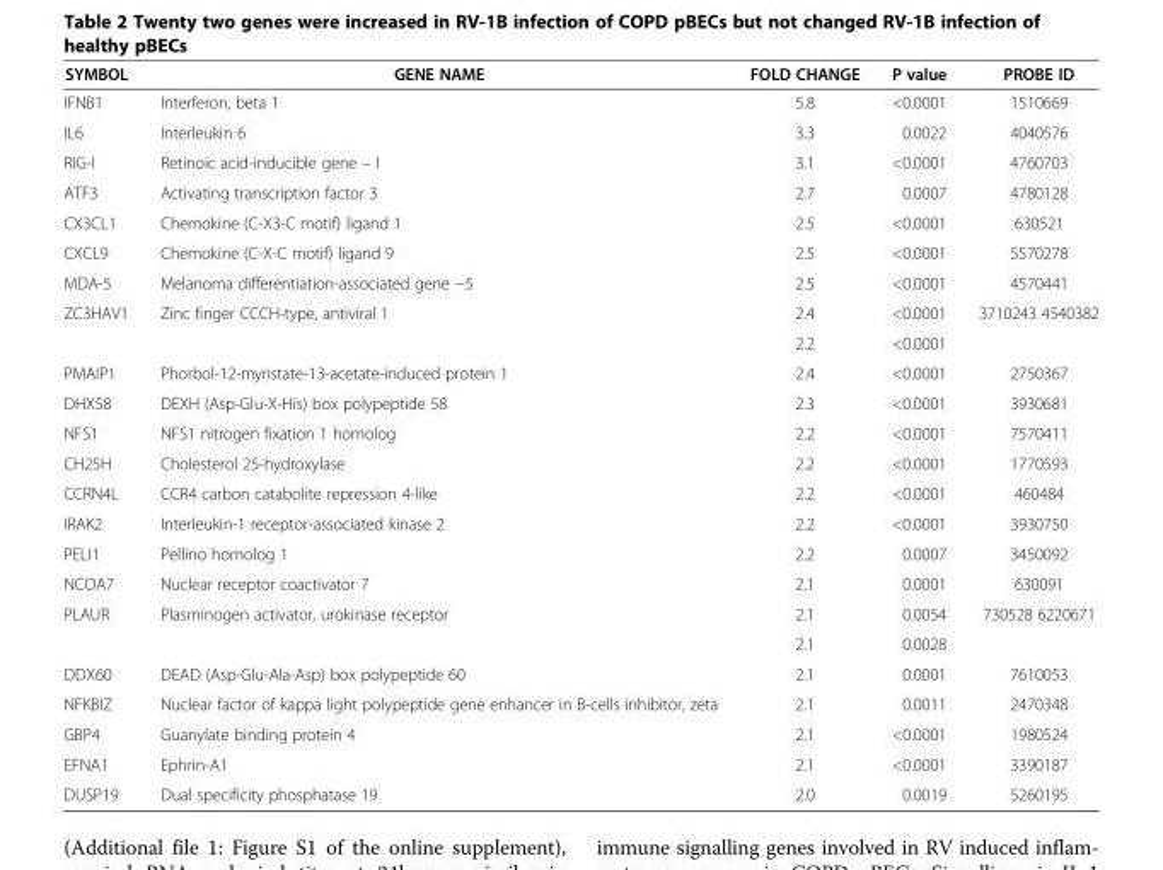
<table><thead><tr><td>SYMBOL</td><td>GENE NAME</td><td>FOLD CHANGE</td><td>P value</td><td>PROBE ID</td></tr></thead><tbody><tr><td>IFNB1</td><td>Interferon, beta 1</td><td>5.8</td><td>&lt;0.0001</td><td>1510669</td></tr><tr><td>IL6</td><td>Interleukin 6</td><td>3.3</td><td>0.0022</td><td>4040576</td></tr><tr><td>RIG-I</td><td>Retinoic acid-inducible gene – I</td><td>3.1</td><td>&lt;0.0001</td><td>4760703</td></tr><tr><td>ATF3</td><td>Activating transcription factor 3</td><td>2.7</td><td>0.0007</td><td>4780128</td></tr><tr><td>CX3CL1</td><td>Chemokine (C-X3-C motif) ligand 1</td><td>2.5</td><td>&lt;0.0001</td><td>630521</td></tr><tr><td>CXCL9</td><td>Chemokine (C-X-C motif) ligand 9</td><td>2.5</td><td>&lt;0.0001</td><td>5570278</td></tr><tr><td>MDA-5</td><td>Melanoma differentiation-associated gene −5</td><td>2.5</td><td>&lt;0.0001</td><td>4570441</td></tr><tr><td rowspan="2">ZC3HAV1</td><td>Zinc finger CCCH-type, antiviral 1</td><td>2.4</td><td>&lt;0.0001</td><td>3710243 4540382</td></tr><tr><td></td><td>2.2</td><td>&lt;0.0001</td><td></td></tr><tr><td>PMAIP1</td><td>Phorbol-12-myristate-13-acetate-induced protein 1</td><td>2.4</td><td>&lt;0.0001</td><td>2750367</td></tr><tr><td>DHX58</td><td>DEXH (Asp-Glu-X-His) box polypeptide 58</td><td>2.3</td><td>&lt;0.0001</td><td>3930681</td></tr><tr><td>NFS1</td><td>NFS1 nitrogen fixation 1 homolog</td><td>2.2</td><td>&lt;0.0001</td><td>7570411</td></tr><tr><td>CH25H</td><td>Cholesterol 25-hydroxylase</td><td>2.2</td><td>&lt;0.0001</td><td>1770593</td></tr><tr><td>CCRN4L</td><td>CCR4 carbon catabolite repression 4-like</td><td>2.2</td><td>&lt;0.0001</td><td>460484</td></tr><tr><td>IRAK2</td><td>Interleukin-1 receptor-associated kinase 2</td><td>2.2</td><td>&lt;0.0001</td><td>3930750</td></tr><tr><td>PELI1</td><td>Pellino homolog 1</td><td>2.2</td><td>0.0007</td><td>3450092</td></tr><tr><td>NCOA7</td><td>Nuclear receptor coactivator 7</td><td>2.1</td><td>0.0001</td><td>630091</td></tr><tr><td rowspan="2">PLAUR</td><td>Plasminogen activator, urokinase receptor</td><td>2.1</td><td>0.0054</td><td>730528 6220671</td></tr><tr><td></td><td>2.1</td><td>0.0028</td><td></td></tr><tr><td>DDX60</td><td>DEAD (Asp-Glu-Ala-Asp) box polypeptide 60</td><td>2.1</td><td>0.0001</td><td>7610053</td></tr><tr><td>NFKBIZ</td><td>Nuclear factor of kappa light polypeptide gene enhancer in B-cells inhibitor, zeta</td><td>2.1</td><td>0.0011</td><td>2470348</td></tr><tr><td>GBP4</td><td>Guanylate binding protein 4</td><td>2.1</td><td>&lt;0.0001</td><td>1980524</td></tr><tr><td>EFNA1</td><td>Ephrin-A1</td><td>2.1</td><td>&lt;0.0001</td><td>3390187</td></tr><tr><td>DUSP19</td><td>Dual specificity phosphatase 19</td><td>2.0</td><td>0.0019</td><td>5260195</td></tr></tbody></table>